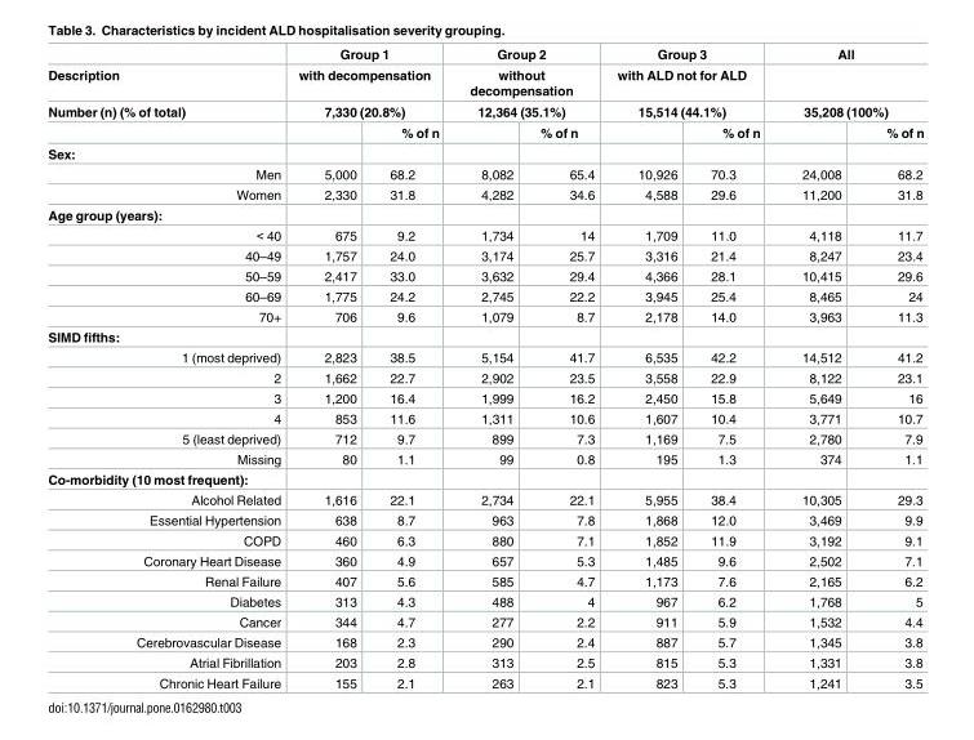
<table><thead><tr><td rowspan="4">Description Number (n) (% of total)</td><td rowspan="3" colspan="2">Group 1 with decompensation 7,330 (20.8%)</td><td rowspan="3" colspan="2">Group 2 without decompensation 12,364 (35.1%)</td><td rowspan="3" colspan="2">Group 3 with ALD not for ALD 15,514 (44.1%)</td><td colspan="2">All</td></tr><tr><td></td><td></td></tr><tr><td colspan="2">35,208 (100%)</td></tr><tr><td></td><td>% of n</td><td></td><td>% of n</td><td></td><td>% of n</td><td></td><td>% of n</td></tr></thead><tbody><tr><td colspan="9">Sex:</td></tr><tr><td>Men</td><td>5,000</td><td>68.2</td><td>8,082</td><td>65.4</td><td>10,926</td><td>70.3</td><td>24,008</td><td>68.2</td></tr><tr><td>Women</td><td>2,330</td><td>31.8</td><td>4,282</td><td>34.6</td><td>4,588</td><td>29.6</td><td>11,200</td><td>31.8</td></tr><tr><td colspan="9">Age group (years):</td></tr><tr><td>&lt; 40</td><td>675</td><td>9.2</td><td>1,734</td><td>14</td><td>1,709</td><td>11.0</td><td>4,118</td><td>11.7</td></tr><tr><td>40–49</td><td>1,757</td><td>24.0</td><td>3,174</td><td>25.7</td><td>3,316</td><td>21.4</td><td>8,247</td><td>23.4</td></tr><tr><td>50–59</td><td>2,417</td><td>33.0</td><td>3,632</td><td>29.4</td><td>4,366</td><td>28.1</td><td>10,415</td><td>29.6</td></tr><tr><td>60–69</td><td>1,775</td><td>24.2</td><td>2,745</td><td>22.2</td><td>3,945</td><td>25.4</td><td>8,465</td><td>24</td></tr><tr><td>70+</td><td>706</td><td>9.6</td><td>1,079</td><td>8.7</td><td>2,178</td><td>14.0</td><td>3,963</td><td>11.3</td></tr><tr><td colspan="9">SIMD fifths:</td></tr><tr><td>1 (most deprived)</td><td>2,823</td><td>38.5</td><td>5,154</td><td>41.7</td><td>6,535</td><td>42.2</td><td>14,512</td><td>41.2</td></tr><tr><td>2</td><td>1,662</td><td>22.7</td><td>2,902</td><td>23.5</td><td>3,558</td><td>22.9</td><td>8,122</td><td>23.1</td></tr><tr><td>3</td><td>1,200</td><td>16.4</td><td>1,999</td><td>16.2</td><td>2,450</td><td>15.8</td><td>5,649</td><td>16</td></tr><tr><td>4</td><td>853</td><td>11.6</td><td>1,311</td><td>10.6</td><td>1,607</td><td>10.4</td><td>3,771</td><td>10.7</td></tr><tr><td>5 (least deprived)</td><td>712</td><td>9.7</td><td>899</td><td>7.3</td><td>1,169</td><td>7.5</td><td>2,780</td><td>7.9</td></tr><tr><td>Missing</td><td>80</td><td>1.1</td><td>99</td><td>0.8</td><td>195</td><td>1.3</td><td>374</td><td>1.1</td></tr><tr><td colspan="9">Co-morbidity (10 most frequent):</td></tr><tr><td>Alcohol Related</td><td>1,616</td><td>22.1</td><td>2,734</td><td>22.1</td><td>5,955</td><td>38.4</td><td>10,305</td><td>29.3</td></tr><tr><td>Essential Hypertension</td><td>638</td><td>8.7</td><td>963</td><td>7.8</td><td>1,868</td><td>12.0</td><td>3,469</td><td>9.9</td></tr><tr><td>COPD</td><td>460</td><td>6.3</td><td>880</td><td>7.1</td><td>1,852</td><td>11.9</td><td>3,192</td><td>9.1</td></tr><tr><td>Coronary Heart Disease</td><td>360</td><td>4.9</td><td>657</td><td>5.3</td><td>1,485</td><td>9.6</td><td>2,502</td><td>7.1</td></tr><tr><td>Renal Failure</td><td>407</td><td>5.6</td><td>585</td><td>4.7</td><td>1,173</td><td>7.6</td><td>2,165</td><td>6.2</td></tr><tr><td>Diabetes</td><td>313</td><td>4.3</td><td>488</td><td>4</td><td>967</td><td>6.2</td><td>1,768</td><td>5</td></tr><tr><td>Cancer</td><td>344</td><td>4.7</td><td>277</td><td>2.2</td><td>911</td><td>5.9</td><td>1,532</td><td>4.4</td></tr><tr><td>Cerebrovascular Disease</td><td>168</td><td>2.3</td><td>290</td><td>2.4</td><td>887</td><td>5.7</td><td>1,345</td><td>3.8</td></tr><tr><td>Atrial Fibrillation</td><td>203</td><td>2.8</td><td>313</td><td>2.5</td><td>815</td><td>5.3</td><td>1,331</td><td>3.8</td></tr><tr><td>Chronic Heart Failure</td><td>155</td><td>2.1</td><td>263</td><td>2.1</td><td>823</td><td>5.3</td><td>1,241</td><td>3.5</td></tr></tbody></table>